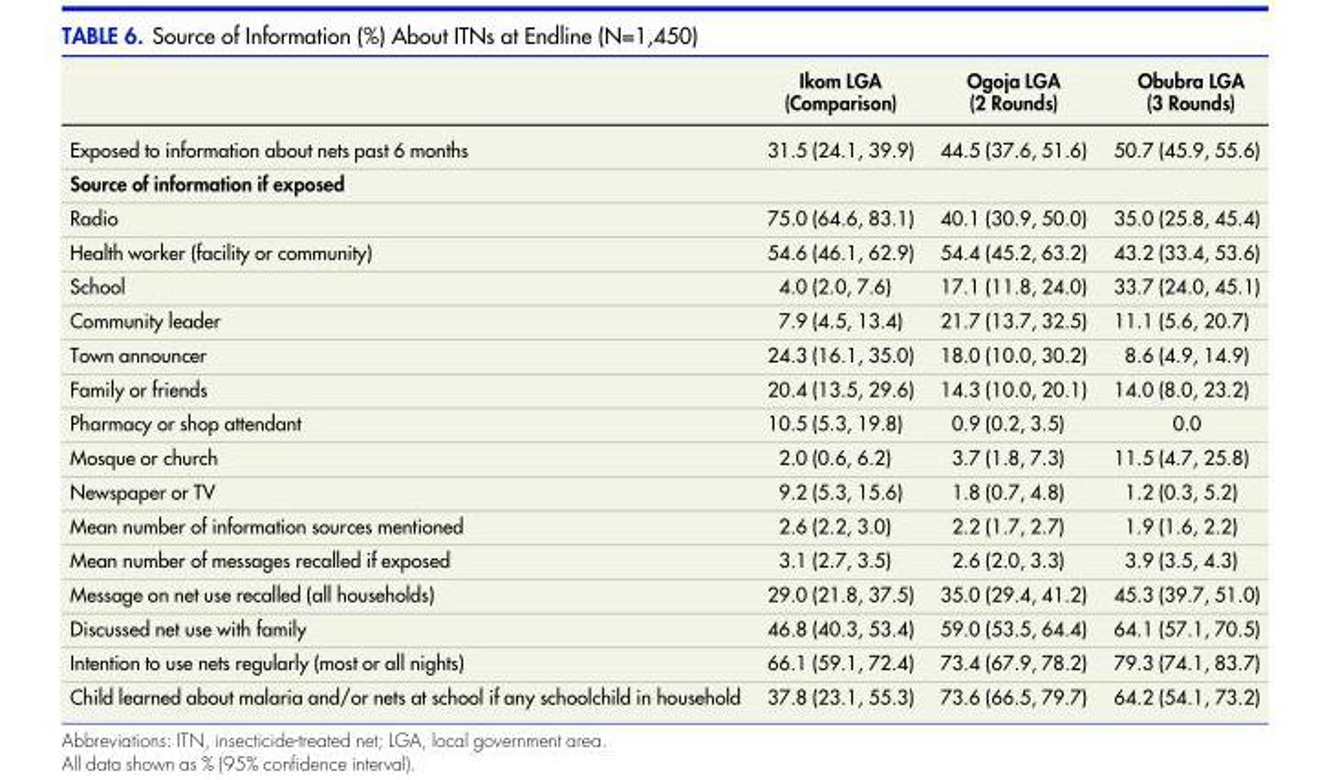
<table><thead><tr><td></td><td>Ikom LGA (Comparison)</td><td>Ogoja LGA (2 Rounds)</td><td>Obubra LGA (3 Rounds)</td></tr></thead><tbody><tr><td>Exposed to information about nets past 6 months</td><td>31.5 (24.1, 39.9)</td><td>44.5 (37.6, 51.6)</td><td>50.7 (45.9, 55.6)</td></tr><tr><td colspan="4">Source of information if exposed</td></tr><tr><td>Radio</td><td>75.0 (64.6, 83.1)</td><td>40.1 (30.9, 50.0)</td><td>35.0 (25.8, 45.4)</td></tr><tr><td>Health worker (facility or community)</td><td>54.6 (46.1, 62.9)</td><td>54.4 (45.2, 63.2)</td><td>43.2 (33.4, 53.6)</td></tr><tr><td>School</td><td>4.0 (2.0, 7.6)</td><td>17.1 (11.8, 24.0)</td><td>33.7 (24.0, 45.1)</td></tr><tr><td>Community leader</td><td>7.9 (4.5, 13.4)</td><td>21.7 (13.7, 32.5)</td><td>11.1 (5.6, 20.7)</td></tr><tr><td>Town announcer</td><td>24.3 (16.1, 35.0)</td><td>18.0 (10.0, 30.2)</td><td>8.6 (4.9, 14.9)</td></tr><tr><td>Family or friends</td><td>20.4 (13.5, 29.6)</td><td>14.3 (10.0, 20.1)</td><td>14.0 (8.0, 23.2)</td></tr><tr><td>Pharmacy or shop attendant</td><td>10.5 (5.3, 19.8)</td><td>0.9 (0.2, 3.5)</td><td>0.0</td></tr><tr><td>Mosque or church</td><td>2.0 (0.6, 6.2)</td><td>3.7 (1.8, 7.3)</td><td>11.5 (4.7, 25.8)</td></tr><tr><td>Newspaper or TV</td><td>9.2 (5.3, 15.6)</td><td>1.8 (0.7, 4.8)</td><td>1.2 (0.3, 5.2)</td></tr><tr><td>Mean number of information sources mentioned</td><td>2.6 (2.2, 3.0)</td><td>2.2 (1.7, 2.7)</td><td>1.9 (1.6, 2.2)</td></tr><tr><td>Mean number of messages recalled if exposed</td><td>3.1 (2.7, 3.5)</td><td>2.6 (2.0, 3.3)</td><td>3.9 (3.5, 4.3)</td></tr><tr><td>Message on net use recalled (all households)</td><td>29.0 (21.8, 37.5)</td><td>35.0 (29.4, 41.2)</td><td>45.3 (39.7, 51.0)</td></tr><tr><td>Discussed net use with family</td><td>46.8 (40.3, 53.4)</td><td>59.0 (53.5, 64.4)</td><td>64.1 (57.1, 70.5)</td></tr><tr><td>Intention to use nets regularly (most or all nights)</td><td>66.1 (59.1, 72.4)</td><td>73.4 (67.9, 78.2)</td><td>79.3 (74.1, 83.7)</td></tr><tr><td>Child learned about malaria and/or nets at school if any schoolchild in household</td><td>37.8 (23.1, 55.3)</td><td>73.6 (66.5, 79.7)</td><td>64.2 (54.1, 73.2)</td></tr></tbody></table>